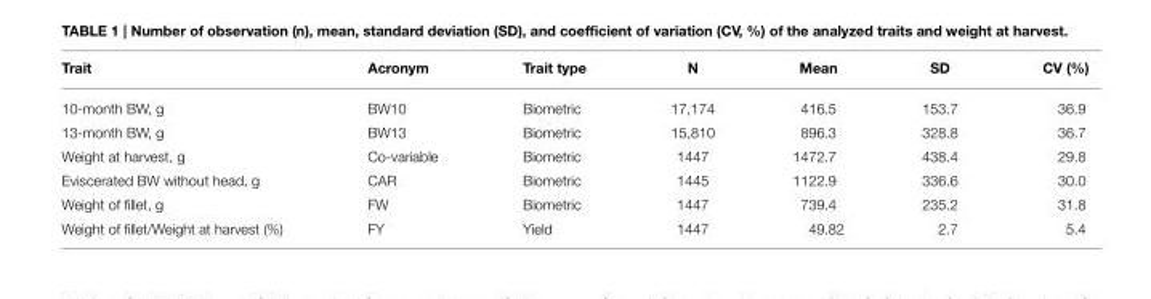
<table><thead><tr><td>Trait</td><td>Acronym</td><td>Trait type</td><td>N</td><td>Mean</td><td>SD</td><td>CV (%)</td></tr></thead><tbody><tr><td>10-month BW, g</td><td>BW10</td><td>Biometric</td><td>17,174</td><td>416.5</td><td>153.7</td><td>36.9</td></tr><tr><td>13-month BW, g</td><td>BW13</td><td>Biometric</td><td>15,810</td><td>896.3</td><td>328.8</td><td>36.7</td></tr><tr><td>Weight at harvest, g</td><td>Co-variable</td><td>Biometric</td><td>1447</td><td>1472.7</td><td>438.4</td><td>29.8</td></tr><tr><td>Eviscerated BW without head, g</td><td>CAR</td><td>Biometric</td><td>1445</td><td>1122.9</td><td>336.6</td><td>30.0</td></tr><tr><td>Weight of fillet, g</td><td>FW</td><td>Biometric</td><td>1447</td><td>739.4</td><td>235.2</td><td>31.8</td></tr><tr><td>Weight of fillet/Weight at harvest (%)</td><td>FY</td><td>Yield</td><td>1447</td><td>49.82</td><td>2.7</td><td>5.4</td></tr></tbody></table>